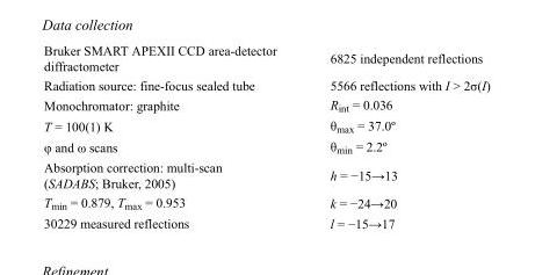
<table><tbody><tr><td>Bruker SMART APEXII CCD area-detector diffractometer</td><td>6825 independent reflections</td></tr><tr><td>Radiation source: fine-focus sealed tube</td><td>5566 reflections with I &gt; 2σ(I)</td></tr><tr><td>Monochromator: graphite</td><td>R<sub>int</sub> = 0.036</td></tr><tr><td>T = 100(1) K</td><td>θ<sub>max</sub> = 37.0º</td></tr><tr><td>φ and ω scans</td><td>θ<sub>min</sub> = 2.2º</td></tr><tr><td>Absorption correction: multi-scan (SADABS; Bruker, 2005)</td><td>h = −15→13</td></tr><tr><td>T<sub>min</sub> = 0.879, T<sub>max</sub> = 0.953</td><td>k = −24→20</td></tr><tr><td>30229 measured reflections</td><td>l = −15→17</td></tr></tbody></table>